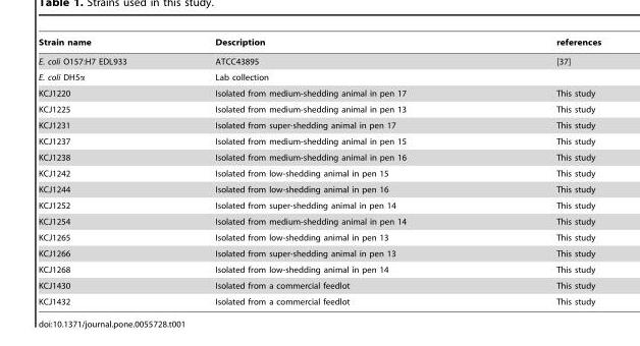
<table><thead><tr><td>Strain name</td><td>Description</td><td>references</td></tr></thead><tbody><tr><td>E. coli O157:H7 EDL933</td><td>ATCC43895</td><td>[37]</td></tr><tr><td>E. coli DH5α</td><td>Lab collection</td><td></td></tr><tr><td>KCJ1220</td><td>Isolated from medium-shedding animal in pen 17</td><td>This study</td></tr><tr><td>KCJ1225</td><td>Isolated from medium-shedding animal in pen 13</td><td>This study</td></tr><tr><td>KCJ1231</td><td>Isolated from super-shedding animal in pen 17</td><td>This study</td></tr><tr><td>KCJ1237</td><td>Isolated from medium-shedding animal in pen 15</td><td>This study</td></tr><tr><td>KCJ1238</td><td>Isolated from medium-shedding animal in pen 16</td><td>This study</td></tr><tr><td>KCJ1242</td><td>Isolated from low-shedding animal in pen 15</td><td>This study</td></tr><tr><td>KCJ1244</td><td>Isolated from low-shedding animal in pen 16</td><td>This study</td></tr><tr><td>KCJ1252</td><td>Isolated from super-shedding animal in pen 14</td><td>This study</td></tr><tr><td>KCJ1254</td><td>Isolated from medium-shedding animal in pen 14</td><td>This study</td></tr><tr><td>KCJ1265</td><td>Isolated from low-shedding animal in pen 13</td><td>This study</td></tr><tr><td>KCJ1266</td><td>Isolated from super-shedding animal in pen 13</td><td>This study</td></tr><tr><td>KCJ1268</td><td>Isolated from low-shedding animal in pen 14</td><td>This study</td></tr><tr><td>KCJ1430</td><td>Isolated from a commercial feedlot</td><td>This study</td></tr><tr><td>KCJ1432</td><td>Isolated from a commercial feedlot</td><td>This study</td></tr></tbody></table>